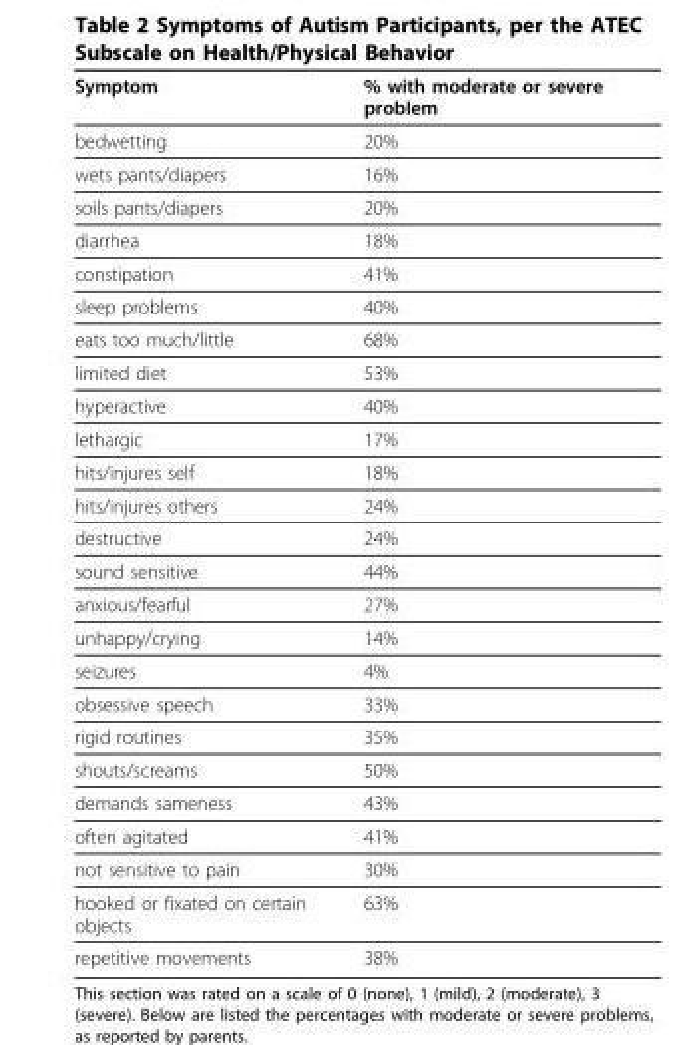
<table><thead><tr><td>Symptom</td><td>% with moderate or severe problem</td></tr></thead><tbody><tr><td>bedwetting</td><td>20%</td></tr><tr><td>wets pants/diapers</td><td>16%</td></tr><tr><td>soils pants/diapers</td><td>20%</td></tr><tr><td>diarrhea</td><td>18%</td></tr><tr><td>constipation</td><td>41%</td></tr><tr><td>sleep problems</td><td>40%</td></tr><tr><td>eats too much/little</td><td>68%</td></tr><tr><td>limited diet</td><td>53%</td></tr><tr><td>hyperactive</td><td>40%</td></tr><tr><td>lethargic</td><td>17%</td></tr><tr><td>hits/injures self</td><td>18%</td></tr><tr><td>hits/injures others</td><td>24%</td></tr><tr><td>destructive</td><td>24%</td></tr><tr><td>sound sensitive</td><td>44%</td></tr><tr><td>anxious/fearful</td><td>27%</td></tr><tr><td>unhappy/crying</td><td>14%</td></tr><tr><td>seizures</td><td>4%</td></tr><tr><td>obsessive speech</td><td>33%</td></tr><tr><td>rigid routines</td><td>35%</td></tr><tr><td>shouts/screams</td><td>50%</td></tr><tr><td>demands sameness</td><td>43%</td></tr><tr><td>often agitated</td><td>41%</td></tr><tr><td>not sensitive to pain</td><td>30%</td></tr><tr><td>hooked or fixated on certain objects</td><td>63%</td></tr><tr><td>repetitive movements</td><td>38%</td></tr></tbody></table>